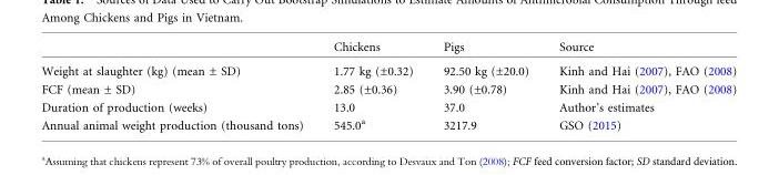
<table><thead><tr><td></td><td>Chickens</td><td>Pigs</td><td>Source</td></tr></thead><tbody><tr><td>Weight at slaughter (kg) (mean ± SD)</td><td>1.77 kg (±0.32)</td><td>92.50 kg (±20.0)</td><td>Kinh and Hai (2007), FAO (2008)</td></tr><tr><td>FCF (mean ± SD)</td><td>2.85 (±0.36)</td><td>3.90 (±0.78)</td><td>Kinh and Hai (2007), FAO (2008)</td></tr><tr><td>Duration of production (weeks)</td><td>13.0</td><td>37.0</td><td>Author’s estimates</td></tr><tr><td>Annual animal weight production (thousand tons)</td><td>545.0<sup>a</sup></td><td>3217.9</td><td>GSO (2015)</td></tr></tbody></table>